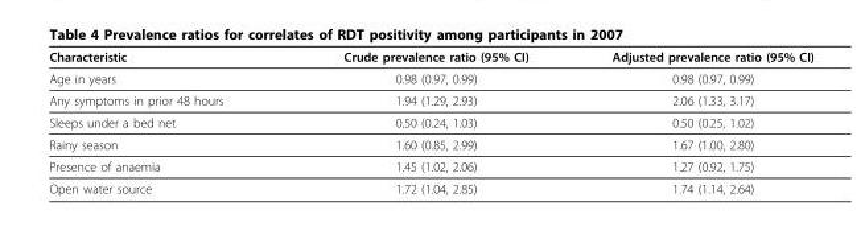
<table><thead><tr><td>Characteristic</td><td>Crude prevalence ratio (95% CI)</td><td>Adjusted prevalence ratio (95% CI)</td></tr></thead><tbody><tr><td>Age in years</td><td>0.98 (0.97, 0.99)</td><td>0.98 (0.97, 0.99)</td></tr><tr><td>Any symptoms in prior 48 hours</td><td>1.94 (1.29, 2.93)</td><td>2.06 (1.33, 3.17)</td></tr><tr><td>Sleeps under a bed net</td><td>0.50 (0.24, 1.03)</td><td>0.50 (0.25, 1.02)</td></tr><tr><td>Rainy season</td><td>1.60 (0.85, 2.99)</td><td>1.67 (1.00, 2.80)</td></tr><tr><td>Presence of anaemia</td><td>1.45 (1.02, 2.06)</td><td>1.27 (0.92, 1.75)</td></tr><tr><td>Open water source</td><td>1.72 (1.04, 2.85)</td><td>1.74 (1.14, 2.64)</td></tr></tbody></table>